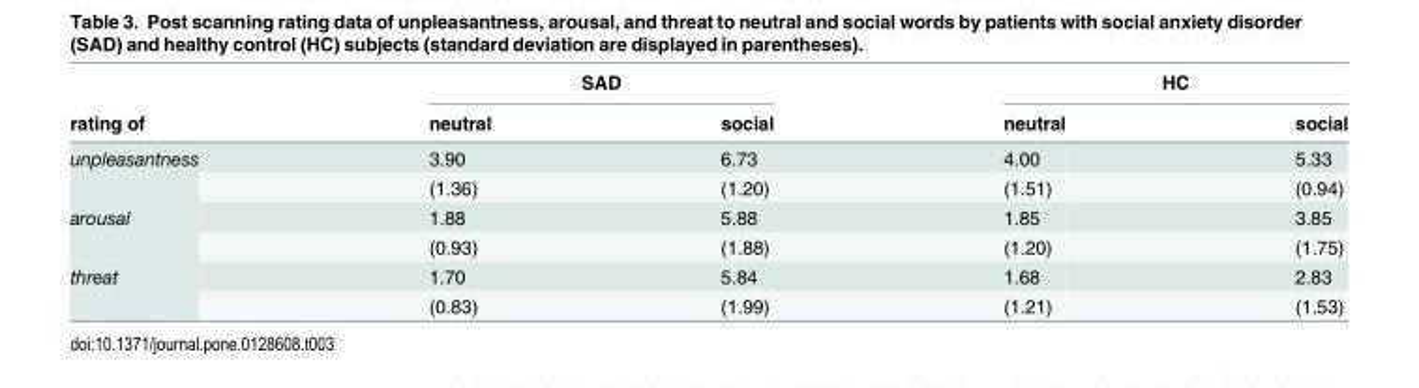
<table><thead><tr><td rowspan="2">rating of</td><td colspan="2">SAD</td><td colspan="2">HC</td></tr><tr><td>neutral</td><td>social</td><td>neutral</td><td>social</td></tr></thead><tbody><tr><td rowspan="2">unpleasantness</td><td>3.90</td><td>6.73</td><td>4.00</td><td>5.33</td></tr><tr><td>(1.36)</td><td>(1.20)</td><td>(1.51)</td><td>(0.94)</td></tr><tr><td rowspan="2">arousal</td><td>1.88</td><td>5.88</td><td>1.85</td><td>3.85</td></tr><tr><td>(0.93)</td><td>(1.88)</td><td>(1.20)</td><td>(1.75)</td></tr><tr><td rowspan="2">threat</td><td>1.70</td><td>5.84</td><td>1.68</td><td>2.83</td></tr><tr><td>(0.83)</td><td>(1.99)</td><td>(1.21)</td><td>(1.53)</td></tr></tbody></table>